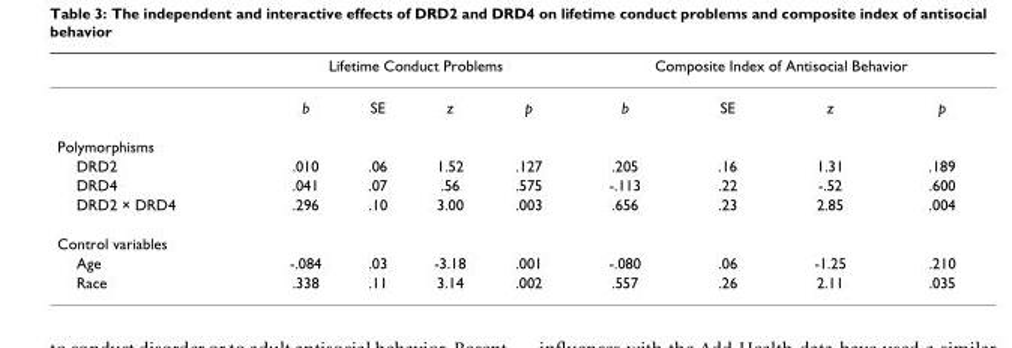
<table><thead><tr><td rowspan="2"></td><td colspan="4">Lifetime Conduct Problems</td><td colspan="4">Composite Index of Antisocial Behavior</td></tr><tr><td>b</td><td>SE</td><td>z</td><td>p</td><td>b</td><td>SE</td><td>z</td><td>p</td></tr></thead><tbody><tr><td colspan="9">Polymorphisms</td></tr><tr><td>DRD2</td><td>.010</td><td>.06</td><td>1.52</td><td>.127</td><td>.205</td><td>.16</td><td>1.31</td><td>.189</td></tr><tr><td>DRD4</td><td>.041</td><td>.07</td><td>.56</td><td>.575</td><td>-.113</td><td>.22</td><td>-.52</td><td>.600</td></tr><tr><td>DRD2 × DRD4</td><td>.296</td><td>.10</td><td>3.00</td><td>.003</td><td>.656</td><td>.23</td><td>2.85</td><td>.004</td></tr><tr><td colspan="9">Control variables</td></tr><tr><td>Age</td><td>-.084</td><td>.03</td><td>-3.18</td><td>.001</td><td>-.080</td><td>.06</td><td>-1.25</td><td>.210</td></tr><tr><td>Race</td><td>.338</td><td>.11</td><td>3.14</td><td>.002</td><td>.557</td><td>.26</td><td>2.11</td><td>.035</td></tr></tbody></table>